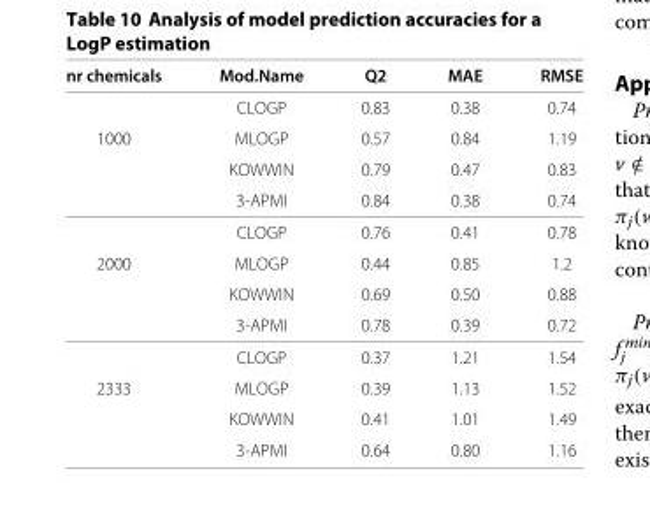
<table><thead><tr><td>nr chemicals</td><td>Mod.Name</td><td>Q2</td><td>MAE</td><td>RMSE</td></tr></thead><tbody><tr><td></td><td>CLOGP</td><td>0.83</td><td>0.38</td><td>0.74</td></tr><tr><td rowspan="4">1000</td><td>MLOGP</td><td>0.57</td><td>0.84</td><td>1.19</td></tr><tr><td>KOWWIN</td><td>0.79</td><td>0.47</td><td>0.83</td></tr><tr><td>3-APMI</td><td>0.84</td><td>0.38</td><td>0.74</td></tr><tr><td>CLOGP</td><td>0.76</td><td>0.41</td><td>0.78</td></tr><tr><td rowspan="4">2000</td><td>MLOGP</td><td>0.44</td><td>0.85</td><td>1.2</td></tr><tr><td>KOWWIN</td><td>0.69</td><td>0.50</td><td>0.88</td></tr><tr><td>3-APMI</td><td>0.78</td><td>0.39</td><td>0.72</td></tr><tr><td>CLOGP</td><td>0.37</td><td>1.21</td><td>1.54</td></tr><tr><td rowspan="3">2333</td><td>MLOGP</td><td>0.39</td><td>1.13</td><td>1.52</td></tr><tr><td>KOWWIN</td><td>0.41</td><td>1.01</td><td>1.49</td></tr><tr><td>3-APMI</td><td>0.64</td><td>0.80</td><td>1.16</td></tr></tbody></table>